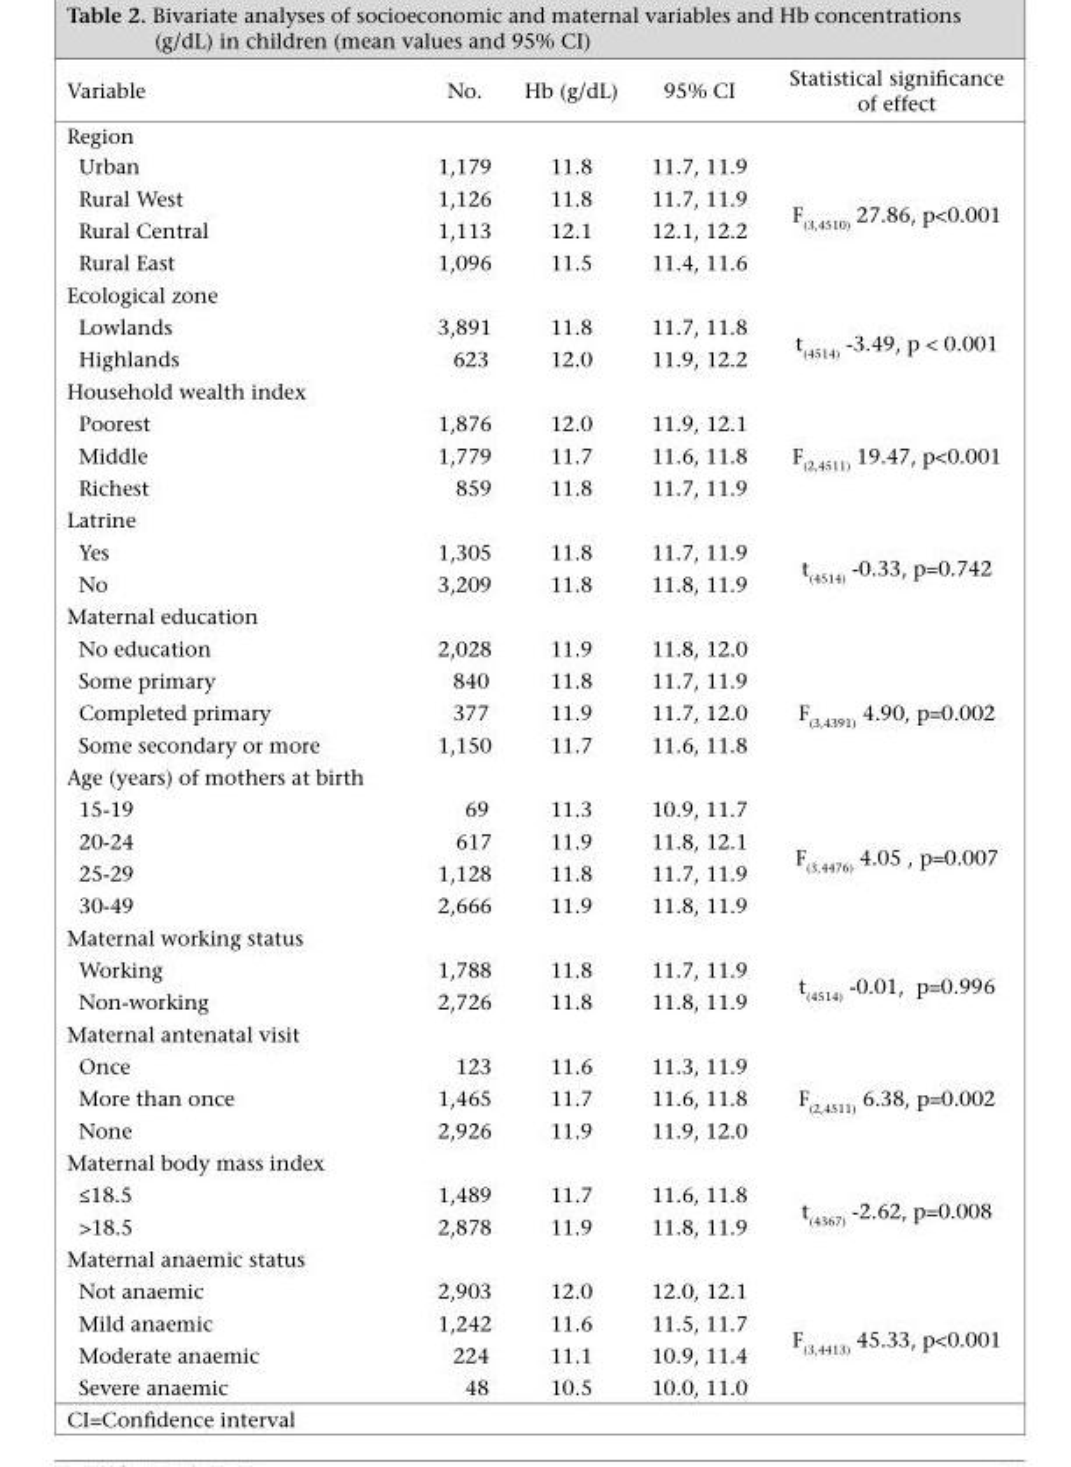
<table><thead><tr><td>Variable</td><td>No.</td><td>Hb (g/dL)</td><td>95% CI</td><td>Statistical significance of effect</td></tr></thead><tbody><tr><td colspan="5">Region</td></tr><tr><td>Urban</td><td>1,179</td><td>11.8</td><td>11.7, 11.9</td><td rowspan="4">F<sub>(3,4510)</sub> 27.86, p&lt;0.001</td></tr><tr><td>Rural West</td><td>1,126</td><td>11.8</td><td>11.7, 11.9</td></tr><tr><td>Rural Central</td><td>1,113</td><td>12.1</td><td>12.1, 12.2</td></tr><tr><td>Rural East</td><td>1,096</td><td>11.5</td><td>11.4, 11.6</td></tr><tr><td colspan="5">Ecological zone</td></tr><tr><td>Lowlands</td><td>3,891</td><td>11.8</td><td>11.7, 11.8</td><td rowspan="2">t<sub>(4514)</sub> -3.49, p &lt; 0.001</td></tr><tr><td>Highlands</td><td>623</td><td>12.0</td><td>11.9, 12.2</td></tr><tr><td colspan="5">Household wealth index</td></tr><tr><td>Poorest</td><td>1,876</td><td>12.0</td><td>11.9, 12.1</td><td rowspan="3">F<sub>(2,4511)</sub> 19.47, p&lt;0.001</td></tr><tr><td>Middle</td><td>1,779</td><td>11.7</td><td>11.6, 11.8</td></tr><tr><td>Richest</td><td>859</td><td>11.8</td><td>11.7, 11.9</td></tr><tr><td colspan="5">Latrine</td></tr><tr><td>Yes</td><td>1,305</td><td>11.8</td><td>11.7, 11.9</td><td rowspan="2">t<sub>(4514)</sub> -0.33, p=0.742</td></tr><tr><td>No</td><td>3,209</td><td>11.8</td><td>11.8, 11.9</td></tr><tr><td colspan="5">Maternal education</td></tr><tr><td>No education</td><td>2,028</td><td>11.9</td><td>11.8, 12.0</td><td></td></tr><tr><td>Some primary</td><td>840</td><td>11.8</td><td>11.7, 11.9</td><td rowspan="3">F<sub>(3,4391)</sub> 4.90, p=0.002</td></tr><tr><td>Completed primary</td><td>377</td><td>11.9</td><td>11.7, 12.0</td></tr><tr><td>Some secondary or more</td><td>1,150</td><td>11.7</td><td>11.6, 11.8</td></tr><tr><td colspan="5">Age (years) of mothers at birth</td></tr><tr><td>15-19</td><td>69</td><td>11.3</td><td>10.9, 11.7</td><td rowspan="4">F<sub>(3,4476)</sub> 4.05 , p=0.007</td></tr><tr><td>20-24</td><td>617</td><td>11.9</td><td>11.8, 12.1</td></tr><tr><td>25-29</td><td>1,128</td><td>11.8</td><td>11.7, 11.9</td></tr><tr><td>30-49</td><td>2,666</td><td>11.9</td><td>11.8, 11.9</td></tr><tr><td colspan="5">Maternal working status</td></tr><tr><td>Working</td><td>1,788</td><td>11.8</td><td>11.7, 11.9</td><td rowspan="2">t<sub>(4514)</sub> -0.01, p=0.996</td></tr><tr><td>Non-working</td><td>2,726</td><td>11.8</td><td>11.8, 11.9</td></tr><tr><td colspan="5">Maternal antenatal visit</td></tr><tr><td>Once</td><td>123</td><td>11.6</td><td>11.3, 11.9</td><td rowspan="3">F<sub>(2,4511)</sub> 6.38, p=0.002</td></tr><tr><td>More than once</td><td>1,465</td><td>11.7</td><td>11.6, 11.8</td></tr><tr><td>None</td><td>2,926</td><td>11.9</td><td>11.9, 12.0</td></tr><tr><td colspan="5">Maternal body mass index</td></tr><tr><td>≤18.5</td><td>1,489</td><td>11.7</td><td>11.6, 11.8</td><td rowspan="2">t<sub>(4367)</sub> -2.62, p=0.008</td></tr><tr><td>&gt;18.5</td><td>2,878</td><td>11.9</td><td>11.8, 11.9</td></tr><tr><td colspan="5">Maternal anaemic status</td></tr><tr><td>Not anaemic</td><td>2,903</td><td>12.0</td><td>12.0, 12.1</td><td rowspan="4">F<sub>(3,4413)</sub> 45.33, p&lt;0.001</td></tr><tr><td>Mild anaemic</td><td>1,242</td><td>11.6</td><td>11.5, 11.7</td></tr><tr><td>Moderate anaemic</td><td>224</td><td>11.1</td><td>10.9, 11.4</td></tr><tr><td>Severe anaemic</td><td>48</td><td>10.5</td><td>10.0, 11.0</td></tr></tbody></table>